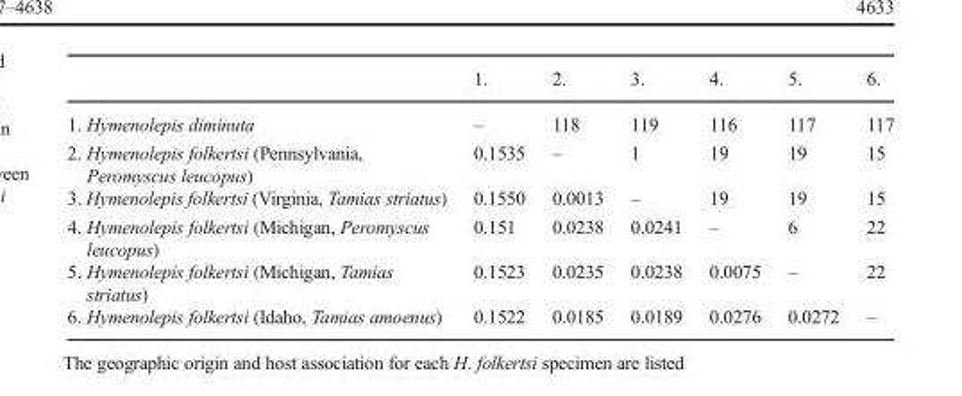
<table><thead><tr><td></td><td>1.</td><td>2.</td><td>3.</td><td>4.</td><td>5.</td><td>6.</td></tr></thead><tbody><tr><td>1. Hymenolepis diminuta</td><td>–</td><td>118</td><td>119</td><td>116</td><td>117</td><td>117</td></tr><tr><td>2. Hymenolepis folkertsi (Pennsylvania, Peromyscus leucopus)</td><td>0.1535</td><td>–</td><td>1</td><td>19</td><td>19</td><td>15</td></tr><tr><td>3. Hymenolepis folkertsi (Virginia, Tamias striatus)</td><td>0.1550</td><td>0.0013</td><td>–</td><td>19</td><td>19</td><td>15</td></tr><tr><td>4. Hymenolepis folkertsi (Michigan, Peromyscus leucopus)</td><td>0.151</td><td>0.0238</td><td>0.0241</td><td>–</td><td>6</td><td>22</td></tr><tr><td>5. Hymenolepis folkertsi (Michigan, Tamias striatus)</td><td>0.1523</td><td>0.0235</td><td>0.0238</td><td>0.0075</td><td>–</td><td>22</td></tr><tr><td>6. Hymenolepis folkertsi (Idaho, Tamias amoenus)</td><td>0.1522</td><td>0.0185</td><td>0.0189</td><td>0.0276</td><td>0.0272</td><td>–</td></tr></tbody></table>